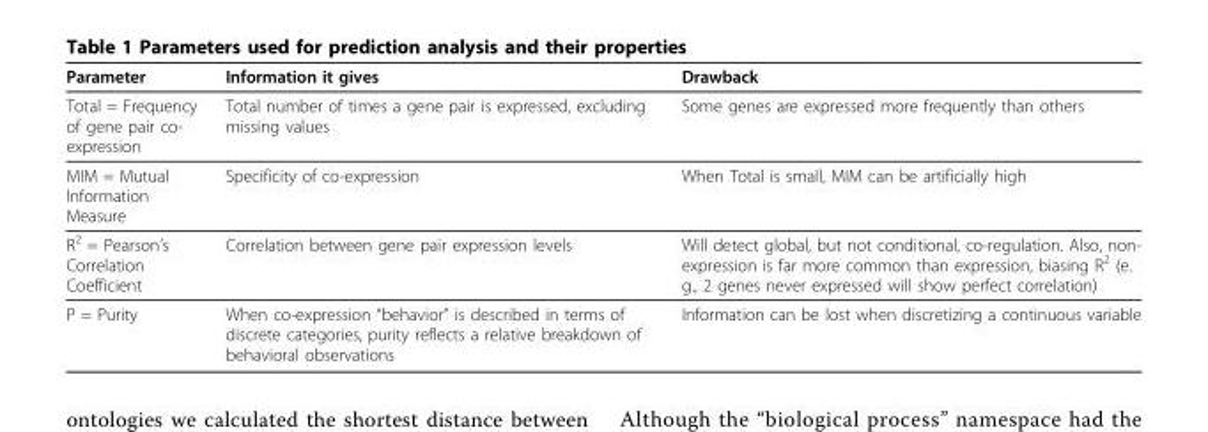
<table><thead><tr><td>Parameter</td><td>Information it gives</td><td>Drawback</td></tr></thead><tbody><tr><td>Total = Frequency of gene pair co- expression</td><td>Total number of times a gene pair is expressed, excluding missing values</td><td>Some genes are expressed more frequently than others</td></tr><tr><td>MIM = Mutual Information Measure</td><td>Specificity of co-expression</td><td>When Total is small, MIM can be artificially high</td></tr><tr><td>R<sup>2</sup> = Pearson’s Correlation Coefficient</td><td>Correlation between gene pair expression levels</td><td>Will detect global, but not conditional, co-regulation. Also, non- expression is far more common than expression, biasing R<sup>2</sup> (e. g., 2 genes never expressed will show perfect correlation)</td></tr><tr><td>P = Purity</td><td>When co-expression “behavior” is described in terms of discrete categories, purity reflects a relative breakdown of behavioral observations</td><td>Information can be lost when discretizing a continuous variable</td></tr></tbody></table>